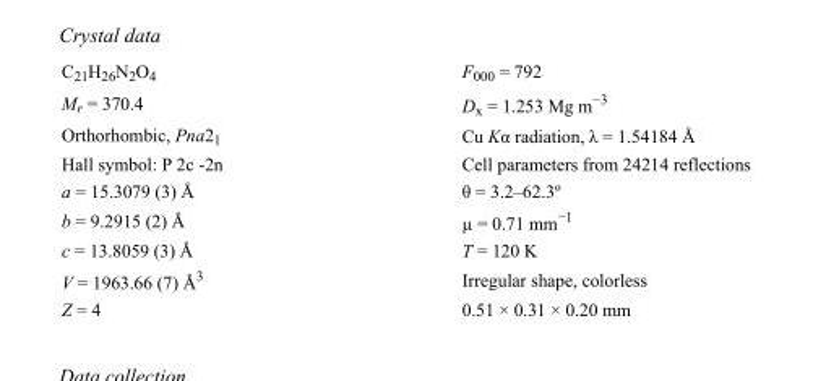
<table><tbody><tr><td>C<sub>21</sub>H<sub>26</sub>N<sub>2</sub>O<sub>4</sub></td><td>F000 = 792</td></tr><tr><td>M<sub>r</sub> = 370.4</td><td>D<sub>x</sub> = 1.253 Mg m<sup>−3</sup></td></tr><tr><td>Orthorhombic, Pna2<sub>1</sub></td><td>Cu Kα radiation, λ = 1.54184 Å</td></tr><tr><td>Hall symbol: P 2c -2n</td><td>Cell parameters from 24214 reflections</td></tr><tr><td>a = 15.3079 (3) Å</td><td>θ = 3.2–62.3º</td></tr><tr><td>b = 9.2915 (2) Å</td><td>µ = 0.71 mm<sup>−1</sup></td></tr><tr><td>c = 13.8059 (3) Å</td><td>T = 120 K</td></tr><tr><td>V = 1963.66 (7) Å<sup>3</sup></td><td>Irregular shape, colorless</td></tr><tr><td>Z = 4</td><td>0.51 × 0.31 × 0.20 mm</td></tr></tbody></table>